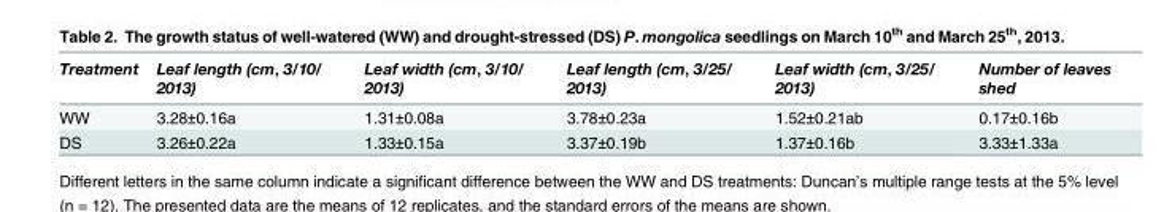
<table><thead><tr><td>Treatment</td><td>Leaf length (cm, 3/10/ 2013)</td><td>Leaf width (cm, 3/10/ 2013)</td><td>Leaf length (cm, 3/25/ 2013)</td><td>Leaf width (cm, 3/25/ 2013)</td><td>Number of leaves shed</td></tr></thead><tbody><tr><td>WW</td><td>3.28±0.16a</td><td>1.31±0.08a</td><td>3.78±0.23a</td><td>1.52±0.21ab</td><td>0.17±0.16b</td></tr><tr><td>DS</td><td>3.26±0.22a</td><td>1.33±0.15a</td><td>3.37±0.19b</td><td>1.37±0.16b</td><td>3.33±1.33a</td></tr></tbody></table>